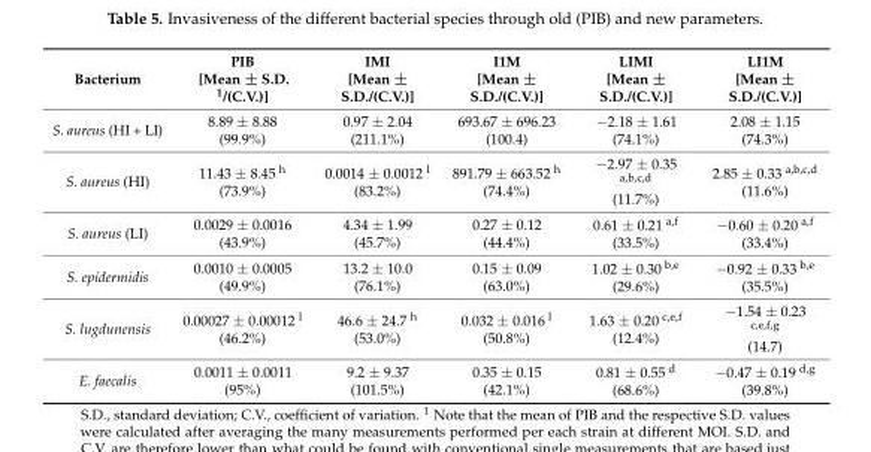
<table><thead><tr><td>Bacterium</td><td>PIB [Mean ± S.D. <sup>1</sup>/(C.V.)]</td><td>IMI [Mean ± S.D./(C.V.)]</td><td>I1M [Mean ± S.D./(C.V.)]</td><td>LIMI [Mean ± S.D./(C.V.)]</td><td>LI1M [Mean ± S.D./(C.V.)]</td></tr></thead><tbody><tr><td>S. aureus (HI + LI)</td><td>8.89 ± 8.88 (99.9%)</td><td>0.97 ± 2.04 (211.1%)</td><td>693.67 ± 696.23 (100.4)</td><td>−2.18 ± 1.61 (74.1%)</td><td>2.08 ± 1.15 (74.3%)</td></tr><tr><td>S. aureus (HI)</td><td>11.43 ± 8.45 <sup>h</sup> (73.9%)</td><td>0.0014 ± 0.0012 <sup>l</sup> (83.2%)</td><td>891.79 ± 663.52 <sup>h</sup> (74.4%)</td><td>−2.97 ± 0.35 <sup>a,b,c,d</sup> (11.7%)</td><td>2.85 ± 0.33 <sup>a,b,c,d</sup> (11.6%)</td></tr><tr><td>S. aureus (LI)</td><td>0.0029 ± 0.0016 (43.9%)</td><td>4.34 ± 1.99 (45.7%)</td><td>0.27 ± 0.12 (44.4%)</td><td>0.61 ± 0.21 <sup>a,f</sup> (33.5%)</td><td>−0.60 ± 0.20 <sup>a,f</sup> (33.4%)</td></tr><tr><td>S. epidermidis</td><td>0.0010 ± 0.0005 (49.9%)</td><td>13.2 ± 10.0 (76.1%)</td><td>0.15 ± 0.09 (63.0%)</td><td>1.02 ± 0.30 <sup>b,e</sup> (29.6%)</td><td>−0.92 ± 0.33 <sup>b,e</sup> (35.5%)</td></tr><tr><td>S. lugdunensis</td><td>0.00027 ± 0.00012 <sup>l</sup> (46.2%)</td><td>46.6 ± 24.7 <sup>h</sup> (53.0%)</td><td>0.032 ± 0.016 <sup>l</sup> (50.8%)</td><td>1.63 ± 0.20 <sup>c,e,f</sup> (12.4%)</td><td>−1.54 ± 0.23 <sup>c,e,f,g</sup> (14.7)</td></tr><tr><td>E. faecalis</td><td>0.0011 ± 0.0011 (95%)</td><td>9.2 ± 9.37 (101.5%)</td><td>0.35 ± 0.15 (42.1%)</td><td>0.81 ± 0.55 <sup>d</sup> (68.6%)</td><td>−0.47 ± 0.19 <sup>d,g</sup> (39.8%)</td></tr></tbody></table>